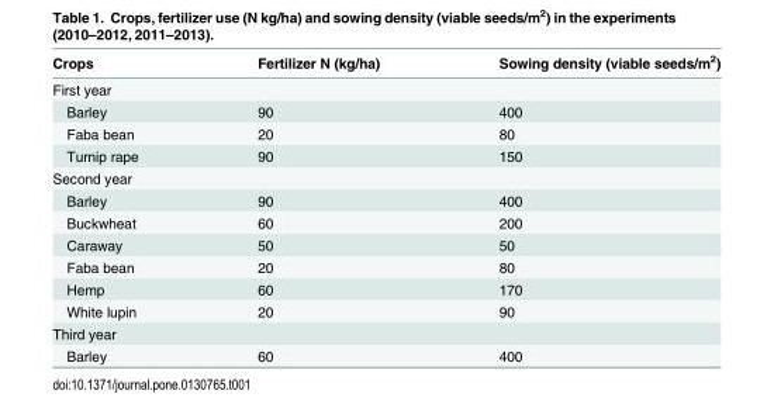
<table><thead><tr><td>Crops</td><td>Fertilizer N (kg/ha)</td><td>Sowing density (viable seeds/m<sup>2</sup>)</td></tr></thead><tbody><tr><td colspan="3">First year</td></tr><tr><td>Barley</td><td>90</td><td>400</td></tr><tr><td>Faba bean</td><td>20</td><td>80</td></tr><tr><td>Turnip rape</td><td>90</td><td>150</td></tr><tr><td colspan="3">Second year</td></tr><tr><td>Barley</td><td>90</td><td>400</td></tr><tr><td>Buckwheat</td><td>60</td><td>200</td></tr><tr><td>Caraway</td><td>50</td><td>50</td></tr><tr><td>Faba bean</td><td>20</td><td>80</td></tr><tr><td>Hemp</td><td>60</td><td>170</td></tr><tr><td>White lupin</td><td>20</td><td>90</td></tr><tr><td colspan="3">Third year</td></tr><tr><td>Barley</td><td>60</td><td>400</td></tr></tbody></table>